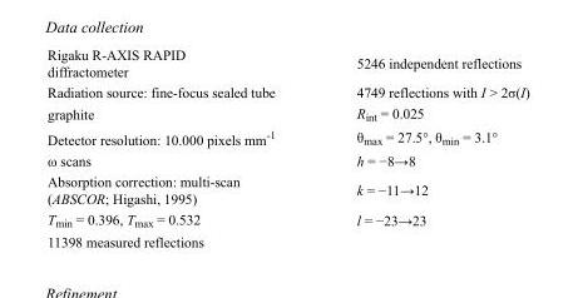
<table><tbody><tr><td>Rigaku R-AXIS RAPID diffractometer</td><td>5246 independent reflections</td></tr><tr><td>Radiation source: fine-focus sealed tube</td><td>4749 reflections with I &gt; 2σ(I)</td></tr><tr><td>graphite</td><td>R<sub>int</sub> = 0.025</td></tr><tr><td>Detector resolution: 10.000 pixels mm<sup>-1</sup></td><td>θ<sub>max</sub> = 27.5°, θ<sub>min</sub> = 3.1°</td></tr><tr><td>ω scans</td><td>h = −8→8</td></tr><tr><td>Absorption correction: multi-scan (ABSCOR; Higashi, 1995)</td><td>k = −11→12</td></tr><tr><td>T<sub>min</sub> = 0.396, T<sub>max</sub> = 0.532</td><td>l = −23→23</td></tr><tr><td>11398 measured reflections</td><td></td></tr></tbody></table>